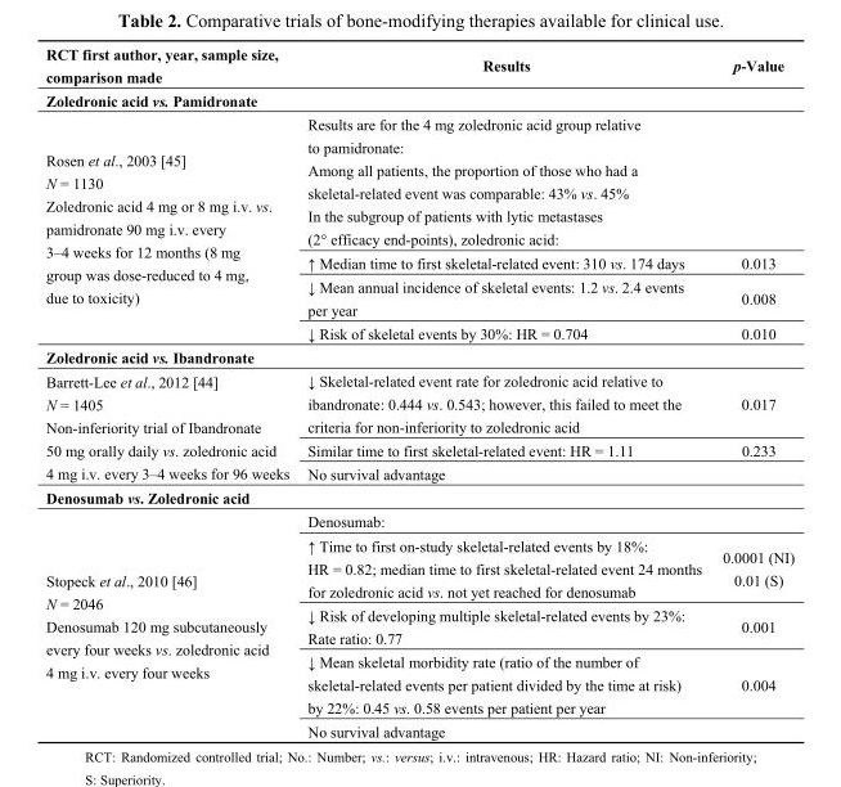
<table><thead><tr><td>RCT first author, year, sample size, comparison made</td><td>Results</td><td>p-Value</td></tr></thead><tbody><tr><td colspan="3">Zoledronic acid vs. Pamidronate</td></tr><tr><td rowspan="4">Rosen et al., 2003 [45] N = 1130 Zoledronic acid 4 mg or 8 mg i.v. vs. pamidronate 90 mg i.v. every 3–4 weeks for 12 months (8 mg group was dose-reduced to 4 mg, due to toxicity)</td><td>Results are for the 4 mg zoledronic acid group relative to pamidronate: Among all patients, the proportion of those who had a skeletal-related event was comparable: 43% vs. 45% In the subgroup of patients with lytic metastases (2° efficacy end-points), zoledronic acid:</td><td></td></tr><tr><td>↑ Median time to first skeletal-related event: 310 vs. 174 days</td><td>0.013</td></tr><tr><td>↓ Mean annual incidence of skeletal events: 1.2 vs. 2.4 events per year</td><td>0.008</td></tr><tr><td>↓ Risk of skeletal events by 30%: HR = 0.704</td><td>0.010</td></tr><tr><td colspan="3">Zoledronic acid vs. Ibandronate</td></tr><tr><td rowspan="3">Barrett-Lee et al., 2012 [44] N = 1405 Non-inferiority trial of Ibandronate 50 mg orally daily vs. zoledronic acid 4 mg i.v. every 3–4 weeks for 96 weeks</td><td>↓ Skeletal-related event rate for zoledronic acid relative to ibandronate: 0.444 vs. 0.543; however, this failed to meet the criteria for non-inferiority to zoledronic acid</td><td>0.017</td></tr><tr><td>Similar time to first skeletal-related event: HR = 1.11</td><td>0.233</td></tr><tr><td>No survival advantage</td><td></td></tr><tr><td colspan="3">Denosumab vs. Zoledronic acid</td></tr><tr><td rowspan="5">Stopeck et al., 2010 [46] N = 2046 Denosumab 120 mg subcutaneously every four weeks vs. zoledronic acid 4 mg i.v. every four weeks</td><td>Denosumab:</td><td></td></tr><tr><td>↑ Time to first on-study skeletal-related events by 18%: HR = 0.82; median time to first skeletal-related event 24 months for zoledronic acid vs. not yet reached for denosumab</td><td>0.0001 (NI) 0.01 (S)</td></tr><tr><td>↓ Risk of developing multiple skeletal-related events by 23%: Rate ratio: 0.77</td><td>0.001</td></tr><tr><td>↓ Mean skeletal morbidity rate (ratio of the number of skeletal-related events per patient divided by the time at risk) by 22%: 0.45 vs. 0.58 events per patient per year</td><td>0.004</td></tr><tr><td>No survival advantage</td><td></td></tr></tbody></table>